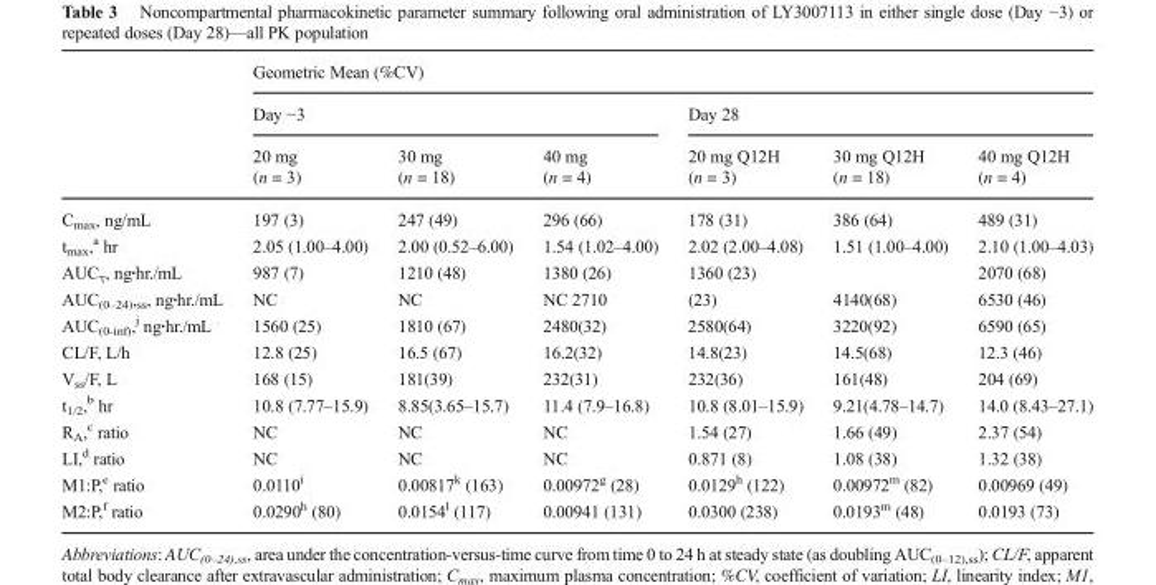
<table><thead><tr><td rowspan="3"></td><td colspan="6">Geometric Mean (%CV)</td></tr><tr><td colspan="3">Day −3</td><td colspan="3">Day 28</td></tr><tr><td>20 mg (n = 3)</td><td>30 mg (n = 18)</td><td>40 mg (n = 4)</td><td>20 mg Q12H (n = 3)</td><td>30 mg Q12H (n = 18)</td><td>40 mg Q12H (n = 4)</td></tr></thead><tbody><tr><td>C<sub>max</sub>, ng/mL</td><td>197 (3)</td><td>247 (49)</td><td>296 (66)</td><td>178 (31)</td><td>386 (64)</td><td>489 (31)</td></tr><tr><td>t<sub>max</sub>,<sup>a</sup> hr</td><td>2.05 (1.00–4.00)</td><td>2.00 (0.52–6.00)</td><td>1.54 (1.02–4.00)</td><td>2.02 (2.00–4.08)</td><td>1.51 (1.00–4.00)</td><td>2.10 (1.00–4.03)</td></tr><tr><td>AUC<sub>τ</sub>, ng·hr./mL</td><td>987 (7)</td><td>1210 (48)</td><td>1380 (26)</td><td>1360 (23)</td><td></td><td>2070 (68)</td></tr><tr><td>AUC<sub>(0–24)</sub>,<sub>ss</sub>, ng·hr./mL</td><td>NC</td><td>NC</td><td>NC 2710</td><td>(23)</td><td>4140(68)</td><td>6530 (46)</td></tr><tr><td>AUC<sub>(0-inf)</sub>,<sup>j</sup> ng·hr./mL</td><td>1560 (25)</td><td>1810 (67)</td><td>2480(32)</td><td>2580(64)</td><td>3220(92)</td><td>6590 (65)</td></tr><tr><td>CL/F, L/h</td><td>12.8 (25)</td><td>16.5 (67)</td><td>16.2(32)</td><td>14.8(23)</td><td>14.5(68)</td><td>12.3 (46)</td></tr><tr><td>V<sub>ss</sub>/F, L</td><td>168 (15)</td><td>181(39)</td><td>232(31)</td><td>232(36)</td><td>161(48)</td><td>204 (69)</td></tr><tr><td>t<sub>1/2</sub>,<sup>b</sup> hr</td><td>10.8 (7.77–15.9)</td><td>8.85(3.65–15.7)</td><td>11.4 (7.9–16.8)</td><td>10.8 (8.01–15.9)</td><td>9.21(4.78–14.7)</td><td>14.0 (8.43–27.1)</td></tr><tr><td>R<sub>A</sub>,<sup>c</sup> ratio</td><td>NC</td><td>NC</td><td>NC</td><td>1.54 (27)</td><td>1.66 (49)</td><td>2.37 (54)</td></tr><tr><td>LI,<sup>d</sup> ratio</td><td>NC</td><td>NC</td><td>NC</td><td>0.871 (8)</td><td>1.08 (38)</td><td>1.32 (38)</td></tr><tr><td>M1:P,<sup>e</sup> ratio</td><td>0.0110<sup>i</sup></td><td>0.00817<sup>k</sup> (163)</td><td>0.00972<sup>g</sup> (28)</td><td>0.0129<sup>h</sup> (122)</td><td>0.00972<sup>m</sup> (82)</td><td>0.00969 (49)</td></tr><tr><td>M2:P,<sup>f</sup> ratio</td><td>0.0290<sup>h</sup> (80)</td><td>0.0154<sup>l</sup> (117)</td><td>0.00941 (131)</td><td>0.0300 (238)</td><td>0.0193<sup>m</sup> (48)</td><td>0.0193 (73)</td></tr></tbody></table>